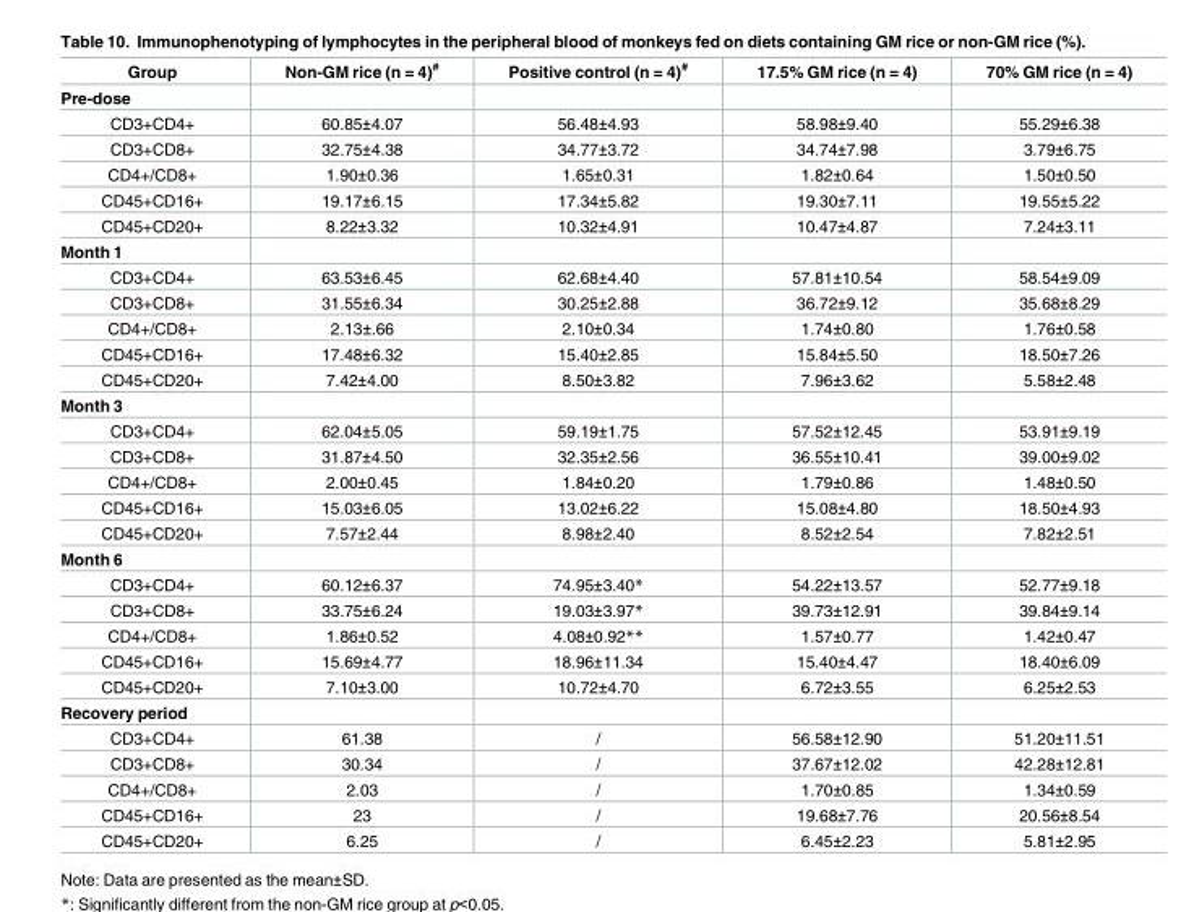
<table><thead><tr><td>Group</td><td>Non-GM rice (n = 4)<sup>#</sup></td><td>Positive control (n = 4)<sup>#</sup></td><td>17.5% GM rice (n = 4)</td><td>70% GM rice (n = 4)</td></tr></thead><tbody><tr><td colspan="5">Pre-dose</td></tr><tr><td>CD3+CD4+</td><td>60.85±4.07</td><td>56.48±4.93</td><td>58.98±9.40</td><td>55.29±6.38</td></tr><tr><td>CD3+CD8+</td><td>32.75±4.38</td><td>34.77±3.72</td><td>34.74±7.98</td><td>3.79±6.75</td></tr><tr><td>CD4+/CD8+</td><td>1.90±0.36</td><td>1.65±0.31</td><td>1.82±0.64</td><td>1.50±0.50</td></tr><tr><td>CD45+CD16+</td><td>19.17±6.15</td><td>17.34±5.82</td><td>19.30±7.11</td><td>19.55±5.22</td></tr><tr><td>CD45+CD20+</td><td>8.22±3.32</td><td>10.32±4.91</td><td>10.47±4.87</td><td>7.24±3.11</td></tr><tr><td colspan="5">Month 1</td></tr><tr><td>CD3+CD4+</td><td>63.53±6.45</td><td>62.68±4.40</td><td>57.81±10.54</td><td>58.54±9.09</td></tr><tr><td>CD3+CD8+</td><td>31.55±6.34</td><td>30.25±2.88</td><td>36.72±9.12</td><td>35.68±8.29</td></tr><tr><td>CD4+/CD8+</td><td>2.13±.66</td><td>2.10±0.34</td><td>1.74±0.80</td><td>1.76±0.58</td></tr><tr><td>CD45+CD16+</td><td>17.48±6.32</td><td>15.40±2.85</td><td>15.84±5.50</td><td>18.50±7.26</td></tr><tr><td>CD45+CD20+</td><td>7.42±4.00</td><td>8.50±3.82</td><td>7.96±3.62</td><td>5.58±2.48</td></tr><tr><td colspan="5">Month 3</td></tr><tr><td>CD3+CD4+</td><td>62.04±5.05</td><td>59.19±1.75</td><td>57.52±12.45</td><td>53.91±9.19</td></tr><tr><td>CD3+CD8+</td><td>31.87±4.50</td><td>32.35±2.56</td><td>36.55±10.41</td><td>39.00±9.02</td></tr><tr><td>CD4+/CD8+</td><td>2.00±0.45</td><td>1.84±0.20</td><td>1.79±0.86</td><td>1.48±0.50</td></tr><tr><td>CD45+CD16+</td><td>15.03±6.05</td><td>13.02±6.22</td><td>15.08±4.80</td><td>18.50±4.93</td></tr><tr><td>CD45+CD20+</td><td>7.57±2.44</td><td>8.98±2.40</td><td>8.52±2.54</td><td>7.82±2.51</td></tr><tr><td colspan="5">Month 6</td></tr><tr><td>CD3+CD4+</td><td>60.12±6.37</td><td>74.95±3.40*</td><td>54.22±13.57</td><td>52.77±9.18</td></tr><tr><td>CD3+CD8+</td><td>33.75±6.24</td><td>19.03±3.97*</td><td>39.73±12.91</td><td>39.84±9.14</td></tr><tr><td>CD4+/CD8+</td><td>1.86±0.52</td><td>4.08±0.92**</td><td>1.57±0.77</td><td>1.42±0.47</td></tr><tr><td>CD45+CD16+</td><td>15.69±4.77</td><td>18.96±11.34</td><td>15.40±4.47</td><td>18.40±6.09</td></tr><tr><td>CD45+CD20+</td><td>7.10±3.00</td><td>10.72±4.70</td><td>6.72±3.55</td><td>6.25±2.53</td></tr><tr><td colspan="5">Recovery period</td></tr><tr><td>CD3+CD4+</td><td>61.38</td><td>/</td><td>56.58±12.90</td><td>51.20±11.51</td></tr><tr><td>CD3+CD8+</td><td>30.34</td><td>/</td><td>37.67±12.02</td><td>42.28±12.81</td></tr><tr><td>CD4+/CD8+</td><td>2.03</td><td>/</td><td>1.70±0.85</td><td>1.34±0.59</td></tr><tr><td>CD45+CD16+</td><td>23</td><td>/</td><td>19.68±7.76</td><td>20.56±8.54</td></tr><tr><td>CD45+CD20+</td><td>6.25</td><td>/</td><td>6.45±2.23</td><td>5.81±2.95</td></tr></tbody></table>